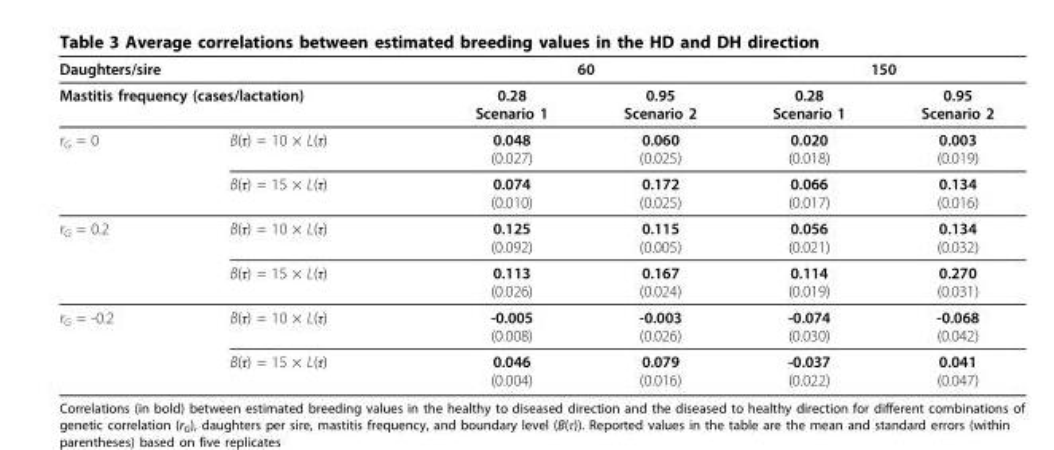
<table><thead><tr><td rowspan="2" colspan="2">Daughters/sire Mastitis frequency (cases/lactation)</td><td colspan="2">60</td><td colspan="2">150</td></tr><tr><td rowspan="2">0.28 Scenario 1 0.048 (0.027)</td><td rowspan="2">0.95 Scenario 2 0.060 (0.025)</td><td rowspan="2">0.28 Scenario 1 0.020 (0.018)</td><td rowspan="2">0.95 Scenario 2 0.003 (0.019)</td></tr><tr><td>rG = 0</td><td>B(τ) = 10 × L(τ)</td></tr></thead><tbody><tr><td></td><td>B(τ) = 15 × L(τ)</td><td>0.074 (0.010)</td><td>0.172 (0.025)</td><td>0.066 (0.017)</td><td>0.134 (0.016)</td></tr><tr><td rowspan="2">r<sub>G</sub> = 0.2</td><td>B(τ) = 10 × L(τ)</td><td>0.125 (0.092)</td><td>0.115 (0.005)</td><td>0.056 (0.021)</td><td>0.134 (0.032)</td></tr><tr><td>B(τ) = 15 × L(τ)</td><td>0.113 (0.026)</td><td>0.167 (0.024)</td><td>0.114 (0.019)</td><td>0.270 (0.031)</td></tr><tr><td rowspan="2">r<sub>G</sub> = -0.2</td><td>B(τ) = 10 × L(τ)</td><td>-0.005 (0.008)</td><td>-0.003 (0.026)</td><td>-0.074 (0.030)</td><td>-0.068 (0.042)</td></tr><tr><td>B(τ) = 15 × L(τ)</td><td>0.046 (0.004)</td><td>0.079 (0.016)</td><td>-0.037 (0.022)</td><td>0.041 (0.047)</td></tr></tbody></table>